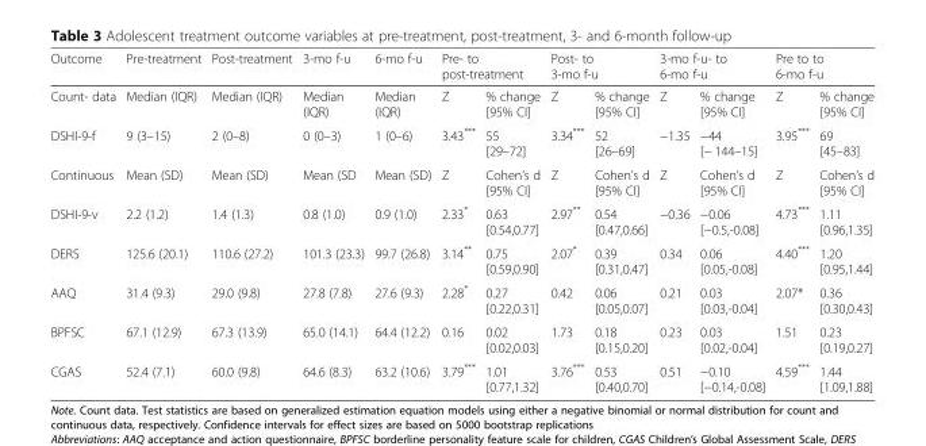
<table><thead><tr><td rowspan="2">Outcome Count- data</td><td rowspan="2">Pre-treatment Median (IQR)</td><td rowspan="2">Post-treatment Median (IQR)</td><td rowspan="2">3-mo f-u Median (IQR)</td><td rowspan="2">6-mo f-u Median (IQR)</td><td colspan="2">Pre- to post-treatment</td><td colspan="2">Post- to 3-mo f-u</td><td colspan="2">3-mo f-u- to 6-mo f-u</td><td colspan="2">Pre to to 6-mo f-u</td></tr><tr><td>Z</td><td>% change [95% CI]</td><td>Z</td><td>% change [95% CI]</td><td>Z</td><td>% change [95% CI]</td><td>Z</td><td>% change [95% CI]</td></tr></thead><tbody><tr><td>DSHI-9-f</td><td>9 (3–15)</td><td>2 (0–8)</td><td>0 (0–3)</td><td>1 (0–6)</td><td>3.43***</td><td>55 [29–72]</td><td>3.34***</td><td>52 [26–69]</td><td>−1.35</td><td>−44 [− 144–15]</td><td>3.95***</td><td>69 [45–83]</td></tr><tr><td>Continuous</td><td>Mean (SD)</td><td>Mean (SD)</td><td>Mean (SD</td><td>Mean (SD)</td><td>Z</td><td>Cohen’s d [95% CI]</td><td>Z</td><td>Cohen’s d [95% CI]</td><td>Z</td><td>Cohen’s d [95% CI]</td><td>Z</td><td>Cohen’s d [95% CI]</td></tr><tr><td>DSHI-9-v</td><td>2.2 (1.2)</td><td>1.4 (1.3)</td><td>0.8 (1.0)</td><td>0.9 (1.0)</td><td>2.33*</td><td>0.63 [0.54,0.77]</td><td>2.97**</td><td>0.54 [0.47,0.66]</td><td>−0.36</td><td>−0.06 [−0.5,-0.08]</td><td>4.73***</td><td>1.11 [0.96,1.35]</td></tr><tr><td>DERS</td><td>125.6 (20.1)</td><td>110.6 (27.2)</td><td>101.3 (23.3)</td><td>99.7 (26.8)</td><td>3.14**</td><td>0.75 [0.59,0.90]</td><td>2.07*</td><td>0.39 [0.31,0.47]</td><td>0.34</td><td>0.06 [0.05,-0.08]</td><td>4.40***</td><td>1.20 [0.95,1.44]</td></tr><tr><td>AAQ</td><td>31.4 (9.3)</td><td>29.0 (9.8)</td><td>27.8 (7.8)</td><td>27.6 (9.3)</td><td>2.28*</td><td>0.27 [0.22,0.31]</td><td>0.42</td><td>0.06 [0.05,0.07]</td><td>0.21</td><td>0.03 [0.03,-0.04]</td><td>2.07*</td><td>0.36 [0.30,0.43]</td></tr><tr><td>BPFSC</td><td>67.1 (12.9)</td><td>67.3 (13.9)</td><td>65.0 (14.1)</td><td>64.4 (12.2)</td><td>0.16</td><td>0.02 [0.02,0.03]</td><td>1.73</td><td>0.18 [0.15,0.20]</td><td>0.23</td><td>0.03 [0.02,-0.04]</td><td>1.51</td><td>0.23 [0.19,0.27]</td></tr><tr><td>CGAS</td><td>52.4 (7.1)</td><td>60.0 (9.8)</td><td>64.6 (8.3)</td><td>63.2 (10.6)</td><td>3.79***</td><td>1.01 [0.77,1.32]</td><td>3.76***</td><td>0.53 [0.40,0.70]</td><td>0.51</td><td>−0.10 [−0.14,-0.08]</td><td>4.59***</td><td>1.44 [1.09,1.88]</td></tr></tbody></table>